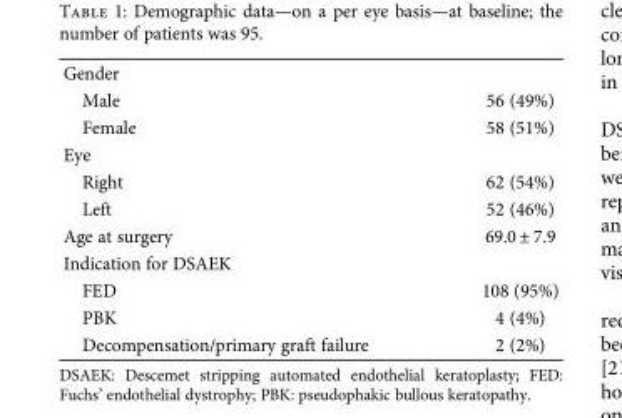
<table><tbody><tr><td colspan="2">Gender</td></tr><tr><td>Male</td><td>56 (49%)</td></tr><tr><td>Female</td><td>58 (51%)</td></tr><tr><td colspan="2">Eye</td></tr><tr><td>Right</td><td>62 (54%)</td></tr><tr><td>Left</td><td>52 (46%)</td></tr><tr><td>Age at surgery</td><td>69.0 ± 7.9</td></tr><tr><td colspan="2">Indication for DSAEK</td></tr><tr><td>FED</td><td>108 (95%)</td></tr><tr><td>PBK</td><td>4 (4%)</td></tr><tr><td>Decompensation/primary graft failure</td><td>2 (2%)</td></tr></tbody></table>